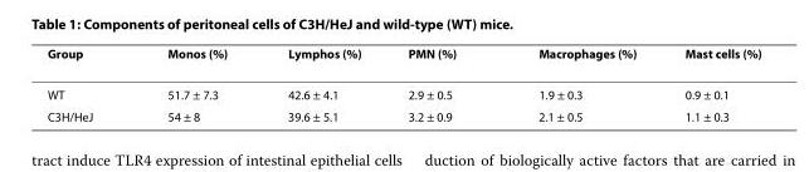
<table><thead><tr><td>Group</td><td>Monos (%)</td><td>Lymphos (%)</td><td>PMN (%)</td><td>Macrophages (%)</td><td>Mast cells (%)</td></tr></thead><tbody><tr><td>WT</td><td>51.7 ± 7.3</td><td>42.6 ± 4.1</td><td>2.9 ± 0.5</td><td>1.9 ± 0.3</td><td>0.9 ± 0.1</td></tr><tr><td>C3H/HeJ</td><td>54 ± 8</td><td>39.6 ± 5.1</td><td>3.2 ± 0.9</td><td>2.1 ± 0.5</td><td>1.1 ± 0.3</td></tr></tbody></table>